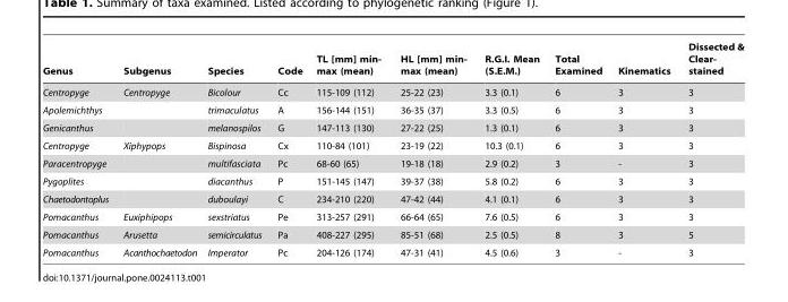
<table><thead><tr><td>Genus</td><td>Subgenus</td><td>Species</td><td>Code</td><td>TL [mm] min- max (mean)</td><td>HL [mm] min- max (mean)</td><td>R.G.I. Mean (S.E.M.)</td><td>Total Examined</td><td>Kinematics</td><td>Dissected &amp; Clear- stained</td></tr></thead><tbody><tr><td>Centropyge</td><td>Centropyge</td><td>Bicolour</td><td>Cc</td><td>115-109 (112)</td><td>25-22 (23)</td><td>3.3 (0.1)</td><td>6</td><td>3</td><td>3</td></tr><tr><td>Apolemichthys</td><td></td><td>trimaculatus</td><td>A</td><td>156-144 (151)</td><td>36-35 (37)</td><td>3.3 (0.5)</td><td>6</td><td>3</td><td>3</td></tr><tr><td>Genicanthus</td><td></td><td>melanospilos</td><td>G</td><td>147-113 (130)</td><td>27-22 (25)</td><td>1.3 (0.1)</td><td>6</td><td>3</td><td>3</td></tr><tr><td>Centropyge</td><td>Xiphypops</td><td>Bispinosa</td><td>Cx</td><td>110-84 (101)</td><td>23-19 (22)</td><td>10.3 (0.1)</td><td>6</td><td>3</td><td>3</td></tr><tr><td>Paracentropyge</td><td></td><td>multifasciata</td><td>Pc</td><td>68-60 (65)</td><td>19-18 (18)</td><td>2.9 (0.2)</td><td>3</td><td>-</td><td>3</td></tr><tr><td>Pygoplites</td><td></td><td>diacanthus</td><td>P</td><td>151-145 (147)</td><td>39-37 (38)</td><td>5.8 (0.2)</td><td>6</td><td>3</td><td>3</td></tr><tr><td>Chaetodontoplus</td><td></td><td>duboulayi</td><td>C</td><td>234-210 (220)</td><td>47-42 (44)</td><td>4.1 (0.1)</td><td>6</td><td>3</td><td>3</td></tr><tr><td>Pomacanthus</td><td>Euxiphipops</td><td>sexstriatus</td><td>Pe</td><td>313-257 (291)</td><td>66-64 (65)</td><td>7.6 (0.5)</td><td>6</td><td>3</td><td>3</td></tr><tr><td>Pomacanthus</td><td>Arusetta</td><td>semicirculatus</td><td>Pa</td><td>408-227 (295)</td><td>85-51 (68)</td><td>2.5 (0.5)</td><td>8</td><td>3</td><td>5</td></tr><tr><td>Pomacanthus</td><td>Acanthochaetodon</td><td>Imperator</td><td>Pc</td><td>204-126 (174)</td><td>47-31 (41)</td><td>4.5 (0.6)</td><td>3</td><td>-</td><td>3</td></tr></tbody></table>